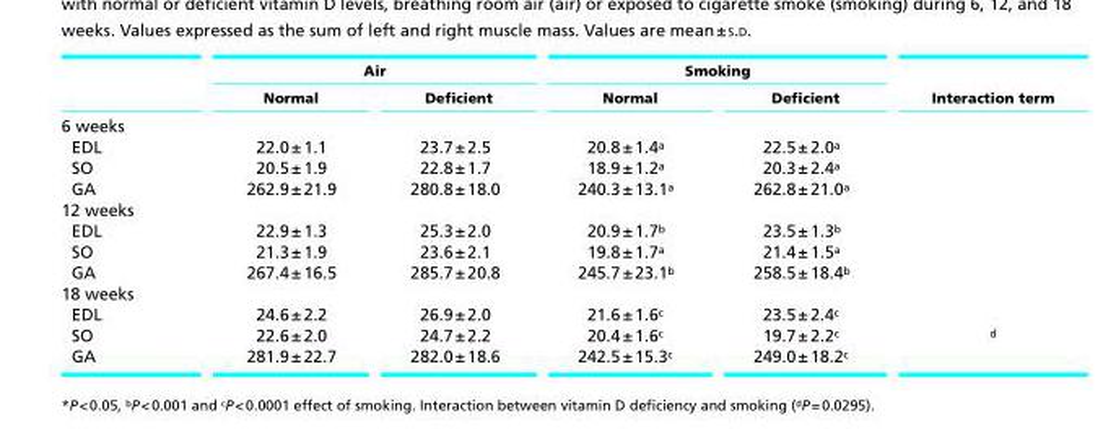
<table><thead><tr><td rowspan="2"></td><td colspan="2">Air</td><td colspan="2">Smoking</td><td rowspan="2">Interaction term</td></tr><tr><td>Normal</td><td>Deficient</td><td>Normal</td><td>Deficient</td></tr></thead><tbody><tr><td colspan="6">6 weeks</td></tr><tr><td>EDL</td><td>22.0 ± 1.1</td><td>23.7 ± 2.5</td><td>20.8 ± 1.4<sup>a</sup></td><td>22.5 ± 2.0<sup>a</sup></td><td></td></tr><tr><td>SO</td><td>20.5 ± 1.9</td><td>22.8 ± 1.7</td><td>18.9 ± 1.2<sup>a</sup></td><td>20.3 ± 2.4<sup>a</sup></td><td></td></tr><tr><td>GA</td><td>262.9 ± 21.9</td><td>280.8 ± 18.0</td><td>240.3 ± 13.1<sup>a</sup></td><td>262.8 ± 21.0<sup>a</sup></td><td></td></tr><tr><td colspan="6">12 weeks</td></tr><tr><td>EDL</td><td>22.9 ± 1.3</td><td>25.3 ± 2.0</td><td>20.9 ± 1.7<sup>b</sup></td><td>23.5 ± 1.3<sup>b</sup></td><td></td></tr><tr><td>SO</td><td>21.3 ± 1.9</td><td>23.6 ± 2.1</td><td>19.8 ± 1.7<sup>a</sup></td><td>21.4 ± 1.5<sup>a</sup></td><td></td></tr><tr><td>GA</td><td>267.4 ± 16.5</td><td>285.7 ± 20.8</td><td>245.7 ± 23.1<sup>b</sup></td><td>258.5 ± 18.4<sup>b</sup></td><td></td></tr><tr><td colspan="6">18 weeks</td></tr><tr><td>EDL</td><td>24.6 ± 2.2</td><td>26.9 ± 2.0</td><td>21.6 ± 1.6<sup>c</sup></td><td>23.5 ± 2.4<sup>c</sup></td><td></td></tr><tr><td>SO</td><td>22.6 ± 2.0</td><td>24.7 ± 2.2</td><td>20.4 ± 1.6<sup>c</sup></td><td>19.7 ± 2.2<sup>c</sup></td><td><sup>d</sup></td></tr><tr><td>GA</td><td>281.9 ± 22.7</td><td>282.0 ± 18.6</td><td>242.5 ± 15.3<sup>c</sup></td><td>249.0 ± 18.2<sup>c</sup></td><td></td></tr></tbody></table>